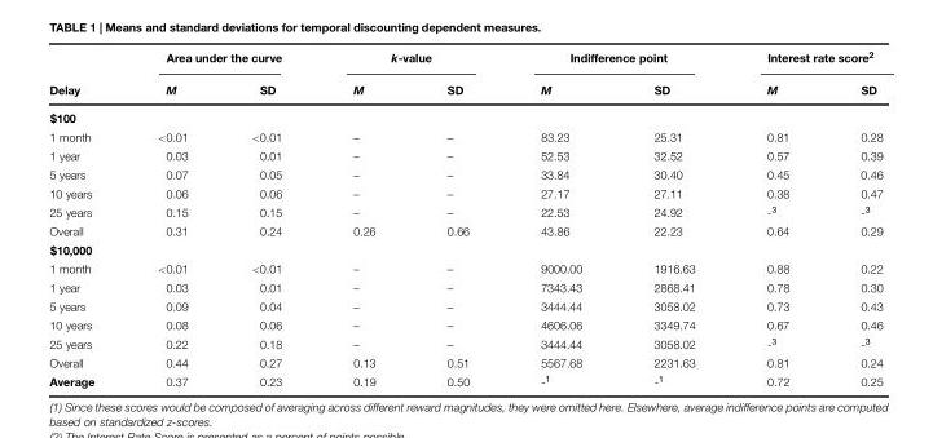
<table><thead><tr><td rowspan="2">Delay</td><td colspan="2">Area under the curve</td><td colspan="2">k-value</td><td colspan="2">Indifference point</td><td colspan="2">Interest rate score<sup>2</sup></td></tr><tr><td>M</td><td>SD</td><td>M</td><td>SD</td><td>M</td><td>SD</td><td>M</td><td>SD</td></tr></thead><tbody><tr><td colspan="9">$100</td></tr><tr><td>1 month</td><td>&lt;0.01</td><td>&lt;0.01</td><td>–</td><td>–</td><td>83.23</td><td>25.31</td><td>0.81</td><td>0.28</td></tr><tr><td>1 year</td><td>0.03</td><td>0.01</td><td>–</td><td>–</td><td>52.53</td><td>32.52</td><td>0.57</td><td>0.39</td></tr><tr><td>5 years</td><td>0.07</td><td>0.05</td><td>–</td><td>–</td><td>33.84</td><td>30.40</td><td>0.45</td><td>0.46</td></tr><tr><td>10 years</td><td>0.06</td><td>0.06</td><td>–</td><td>–</td><td>27.17</td><td>27.11</td><td>0.38</td><td>0.47</td></tr><tr><td>25 years</td><td>0.15</td><td>0.15</td><td>–</td><td>–</td><td>22.53</td><td>24.92</td><td>-<sup>3</sup></td><td>-<sup>3</sup></td></tr><tr><td>Overall</td><td>0.31</td><td>0.24</td><td>0.26</td><td>0.66</td><td>43.86</td><td>22.23</td><td>0.64</td><td>0.29</td></tr><tr><td colspan="9">$10,000</td></tr><tr><td>1 month</td><td>&lt;0.01</td><td>&lt;0.01</td><td>–</td><td>–</td><td>9000.00</td><td>1916.63</td><td>0.88</td><td>0.22</td></tr><tr><td>1 year</td><td>0.03</td><td>0.01</td><td>–</td><td>–</td><td>7343.43</td><td>2868.41</td><td>0.78</td><td>0.30</td></tr><tr><td>5 years</td><td>0.09</td><td>0.04</td><td>–</td><td>–</td><td>3444.44</td><td>3058.02</td><td>0.73</td><td>0.43</td></tr><tr><td>10 years</td><td>0.08</td><td>0.06</td><td>–</td><td>–</td><td>4606.06</td><td>3349.74</td><td>0.67</td><td>0.46</td></tr><tr><td>25 years</td><td>0.22</td><td>0.18</td><td>–</td><td>–</td><td>3444.44</td><td>3058.02</td><td>-<sup>3</sup></td><td>-<sup>3</sup></td></tr><tr><td>Overall</td><td>0.44</td><td>0.27</td><td>0.13</td><td>0.51</td><td>5567.68</td><td>2231.63</td><td>0.81</td><td>0.24</td></tr><tr><td>Average</td><td>0.37</td><td>0.23</td><td>0.19</td><td>0.50</td><td>-<sup>1</sup></td><td>-<sup>1</sup></td><td>0.72</td><td>0.25</td></tr></tbody></table>